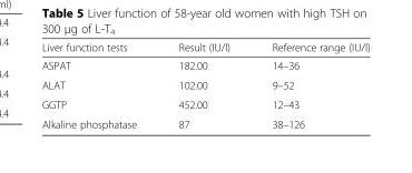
<table><thead><tr><td>Liver function tests</td><td>Result (IU/l)</td><td>Reference range (IU/l)</td></tr></thead><tbody><tr><td>ASPAT</td><td>182.00</td><td>14–36</td></tr><tr><td>ALAT</td><td>102.00</td><td>9–52</td></tr><tr><td>GGTP</td><td>452.00</td><td>12–43</td></tr><tr><td>Alkaline phosphatase</td><td>87</td><td>38–126</td></tr></tbody></table>